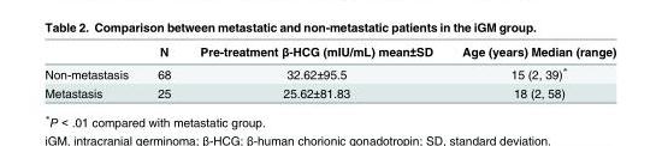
<table><thead><tr><td></td><td>N</td><td>Pre-treatment β-HCG (mIU/mL) mean±SD</td><td>Age (years) Median (range)</td></tr></thead><tbody><tr><td>Non-metastasis</td><td>68</td><td>32.62±95.5</td><td>15 (2, 39)*</td></tr><tr><td>Metastasis</td><td>25</td><td>25.62±81.83</td><td>18 (2, 58)</td></tr></tbody></table>